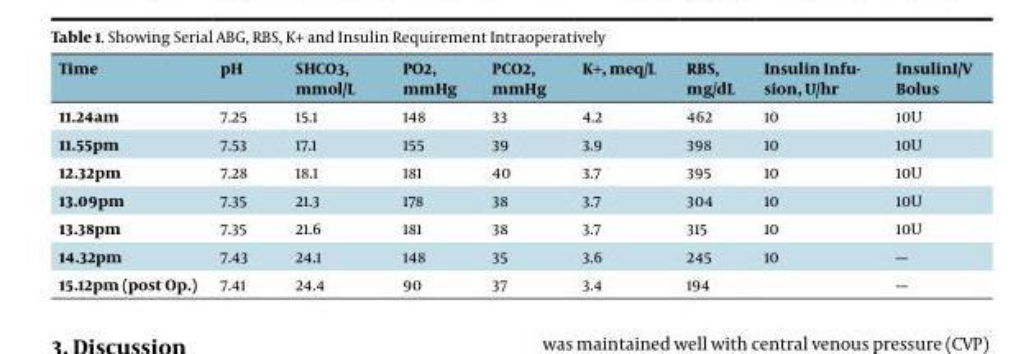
<table><thead><tr><td>Time</td><td>pH</td><td>SHCO3, mmol/L</td><td>PO2, mmHg</td><td>PCO2, mmHg</td><td>K+, meq/L</td><td>RBS, mg/dL</td><td>Insulin Infu- sion, U/hr</td><td>InsulinI/V Bolus</td></tr></thead><tbody><tr><td>11.24am</td><td>7.25</td><td>15.1</td><td>148</td><td>33</td><td>4.2</td><td>462</td><td>10</td><td>10U</td></tr><tr><td>11.55pm</td><td>7.53</td><td>17.1</td><td>155</td><td>39</td><td>3.9</td><td>398</td><td>10</td><td>10U</td></tr><tr><td>12.32pm</td><td>7.28</td><td>18.1</td><td>181</td><td>40</td><td>3.7</td><td>395</td><td>10</td><td>10U</td></tr><tr><td>13.09pm</td><td>7.35</td><td>21.3</td><td>178</td><td>38</td><td>3.7</td><td>304</td><td>10</td><td>10U</td></tr><tr><td>13.38pm</td><td>7.35</td><td>21.6</td><td>181</td><td>38</td><td>3.7</td><td>315</td><td>10</td><td>10U</td></tr><tr><td>14.32pm</td><td>7.43</td><td>24.1</td><td>148</td><td>35</td><td>3.6</td><td>245</td><td>10</td><td>---</td></tr><tr><td>15.12pm (post Op.)</td><td>7.41</td><td>24.4</td><td>90</td><td>37</td><td>3.4</td><td>194</td><td></td><td>---</td></tr></tbody></table>